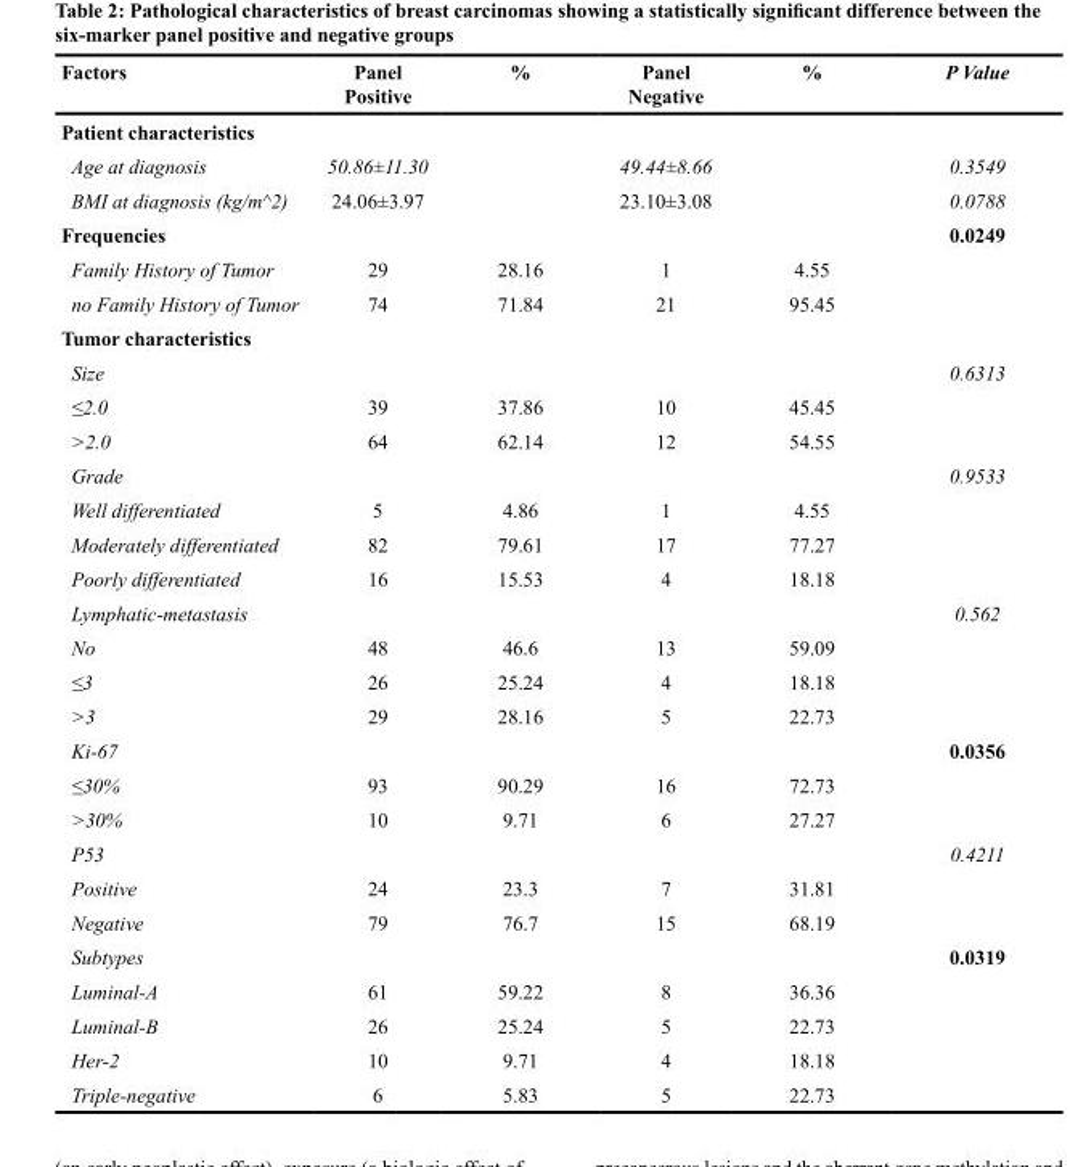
<table><thead><tr><td>Factors</td><td>Panel Positive</td><td>%</td><td>Panel Negative</td><td>%</td><td>P Value</td></tr></thead><tbody><tr><td colspan="6">Patient characteristics</td></tr><tr><td>Age at diagnosis</td><td>50.86±11.30</td><td></td><td>49.44±8.66</td><td></td><td>0.3549</td></tr><tr><td>BMI at diagnosis (kg/m^2)</td><td>24.06±3.97</td><td></td><td>23.10±3.08</td><td></td><td>0.0788</td></tr><tr><td>Frequencies</td><td></td><td></td><td></td><td></td><td>0.0249</td></tr><tr><td>Family History of Tumor</td><td>29</td><td>28.16</td><td>1</td><td>4.55</td><td></td></tr><tr><td>no Family History of Tumor</td><td>74</td><td>71.84</td><td>21</td><td>95.45</td><td></td></tr><tr><td colspan="6">Tumor characteristics</td></tr><tr><td>Size</td><td></td><td></td><td></td><td></td><td>0.6313</td></tr><tr><td>≤2.0</td><td>39</td><td>37.86</td><td>10</td><td>45.45</td><td></td></tr><tr><td>&gt;2.0</td><td>64</td><td>62.14</td><td>12</td><td>54.55</td><td></td></tr><tr><td>Grade</td><td></td><td></td><td></td><td></td><td>0.9533</td></tr><tr><td>Well differentiated</td><td>5</td><td>4.86</td><td>1</td><td>4.55</td><td></td></tr><tr><td>Moderately differentiated</td><td>82</td><td>79.61</td><td>17</td><td>77.27</td><td></td></tr><tr><td>Poorly differentiated</td><td>16</td><td>15.53</td><td>4</td><td>18.18</td><td></td></tr><tr><td>Lymphatic-metastasis</td><td></td><td></td><td></td><td></td><td>0.562</td></tr><tr><td>No</td><td>48</td><td>46.6</td><td>13</td><td>59.09</td><td></td></tr><tr><td>≤3</td><td>26</td><td>25.24</td><td>4</td><td>18.18</td><td></td></tr><tr><td>&gt;3</td><td>29</td><td>28.16</td><td>5</td><td>22.73</td><td></td></tr><tr><td>Ki-67</td><td></td><td></td><td></td><td></td><td>0.0356</td></tr><tr><td>≤30%</td><td>93</td><td>90.29</td><td>16</td><td>72.73</td><td></td></tr><tr><td>&gt;30%</td><td>10</td><td>9.71</td><td>6</td><td>27.27</td><td></td></tr><tr><td>P53</td><td></td><td></td><td></td><td></td><td>0.4211</td></tr><tr><td>Positive</td><td>24</td><td>23.3</td><td>7</td><td>31.81</td><td></td></tr><tr><td>Negative</td><td>79</td><td>76.7</td><td>15</td><td>68.19</td><td></td></tr><tr><td>Subtypes</td><td></td><td></td><td></td><td></td><td>0.0319</td></tr><tr><td>Luminal-A</td><td>61</td><td>59.22</td><td>8</td><td>36.36</td><td></td></tr><tr><td>Luminal-B</td><td>26</td><td>25.24</td><td>5</td><td>22.73</td><td></td></tr><tr><td>Her-2</td><td>10</td><td>9.71</td><td>4</td><td>18.18</td><td></td></tr><tr><td>Triple-negative</td><td>6</td><td>5.83</td><td>5</td><td>22.73</td><td></td></tr></tbody></table>